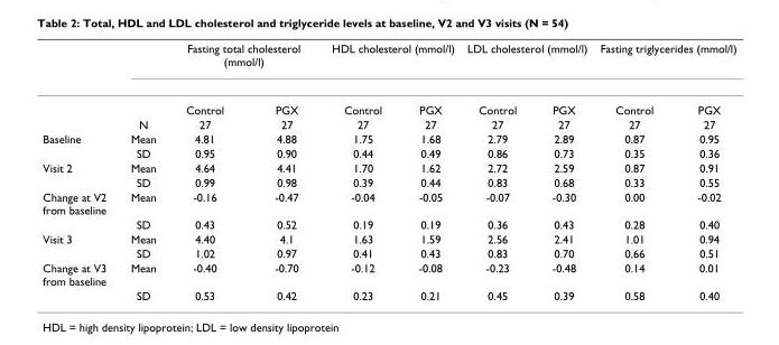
<table><thead><tr><td rowspan="2"></td><td rowspan="2"></td><td colspan="2">Fasting total cholesterol (mmol/l)</td><td colspan="2">HDL cholesterol (mmol/l)</td><td colspan="2">LDL cholesterol (mmol/l)</td><td colspan="2">Fasting triglycerides (mmol/l)</td></tr><tr><td>Control</td><td>PGX</td><td>Control</td><td>PGX</td><td>Control</td><td>PGX</td><td>Control</td><td>PGX</td></tr></thead><tbody><tr><td></td><td>N</td><td>27</td><td>27</td><td>27</td><td>27</td><td>27</td><td>27</td><td>27</td><td>27</td></tr><tr><td rowspan="2">Baseline</td><td>Mean</td><td>4.81</td><td>4.88</td><td>1.75</td><td>1.68</td><td>2.79</td><td>2.89</td><td>0.87</td><td>0.95</td></tr><tr><td>SD</td><td>0.95</td><td>0.90</td><td>0.44</td><td>0.49</td><td>0.86</td><td>0.73</td><td>0.35</td><td>0.36</td></tr><tr><td rowspan="2">Visit 2</td><td>Mean</td><td>4.64</td><td>4.41</td><td>1.70</td><td>1.62</td><td>2.72</td><td>2.59</td><td>0.87</td><td>0.91</td></tr><tr><td>SD</td><td>0.99</td><td>0.98</td><td>0.39</td><td>0.44</td><td>0.83</td><td>0.68</td><td>0.33</td><td>0.55</td></tr><tr><td rowspan="2">Change at V2 from baseline</td><td>Mean</td><td>-0.16</td><td>-0.47</td><td>-0.04</td><td>-0.05</td><td>-0.07</td><td>-0.30</td><td>0.00</td><td>-0.02</td></tr><tr><td>SD</td><td>0.43</td><td>0.52</td><td>0.19</td><td>0.19</td><td>0.36</td><td>0.43</td><td>0.28</td><td>0.40</td></tr><tr><td rowspan="2">Visit 3</td><td>Mean</td><td>4.40</td><td>4.1</td><td>1.63</td><td>1.59</td><td>2.56</td><td>2.41</td><td>1.01</td><td>0.94</td></tr><tr><td>SD</td><td>1.02</td><td>0.97</td><td>0.41</td><td>0.43</td><td>0.83</td><td>0.70</td><td>0.66</td><td>0.51</td></tr><tr><td rowspan="2">Change at V3 from baseline</td><td>Mean</td><td>-0.40</td><td>-0.70</td><td>-0.12</td><td>-0.08</td><td>-0.23</td><td>-0.48</td><td>0.14</td><td>0.01</td></tr><tr><td>SD</td><td>0.53</td><td>0.42</td><td>0.23</td><td>0.21</td><td>0.45</td><td>0.39</td><td>0.58</td><td>0.40</td></tr></tbody></table>